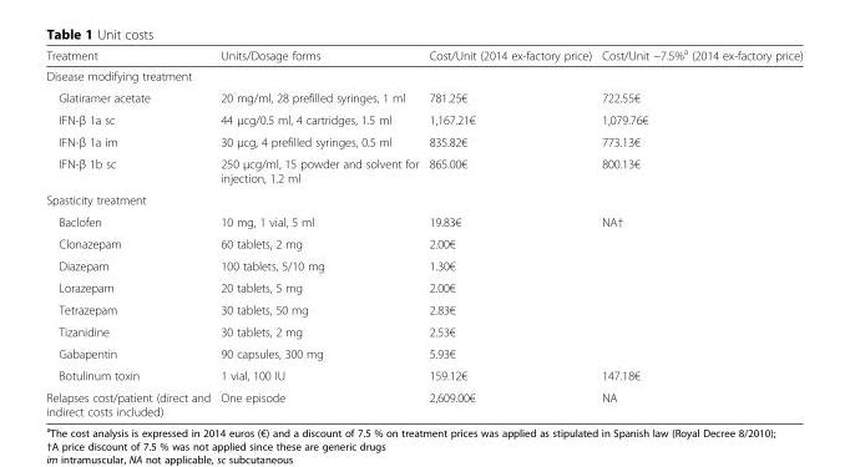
<table><thead><tr><td>Treatment</td><td>Units/Dosage forms</td><td>Cost/Unit (2014 ex-factory price)</td><td>Cost/Unit −7.5%<sup>a</sup> (2014 ex-factory price)</td></tr></thead><tbody><tr><td colspan="4">Disease modifying treatment</td></tr><tr><td>Glatiramer acetate</td><td>20 mg/ml, 28 prefilled syringes, 1 ml</td><td>781.25€</td><td>722.55€</td></tr><tr><td>IFN-β 1a sc</td><td>44 μcg/0.5 ml, 4 cartridges, 1.5 ml</td><td>1,167.21€</td><td>1,079.76€</td></tr><tr><td>IFN-β 1a im</td><td>30 μcg, 4 prefilled syringes, 0.5 ml</td><td>835.82€</td><td>773.13€</td></tr><tr><td>IFN-β 1b sc</td><td>250 μcg/ml, 15 powder and solvent for injection, 1.2 ml</td><td>865.00€</td><td>800.13€</td></tr><tr><td colspan="4">Spasticity treatment</td></tr><tr><td>Baclofen</td><td>10 mg, 1 vial, 5 ml</td><td>19.83€</td><td rowspan="7">NA†</td></tr><tr><td>Clonazepam</td><td>60 tablets, 2 mg</td><td>2.00€</td></tr><tr><td>Diazepam</td><td>100 tablets, 5/10 mg</td><td>1.30€</td></tr><tr><td>Lorazepam</td><td>20 tablets, 5 mg</td><td>2.00€</td></tr><tr><td>Tetrazepam</td><td>30 tablets, 50 mg</td><td>2.83€</td></tr><tr><td>Tizanidine</td><td>30 tablets, 2 mg</td><td>2.53€</td></tr><tr><td>Gabapentin</td><td>90 capsules, 300 mg</td><td>5.93€</td></tr><tr><td>Botulinum toxin</td><td>1 vial, 100 IU</td><td>159.12€</td><td>147.18€</td></tr><tr><td>Relapses cost/patient (direct and indirect costs included)</td><td>One episode</td><td>2,609.00€</td><td>NA</td></tr></tbody></table>